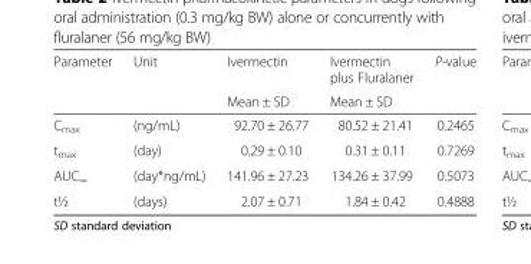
<table><thead><tr><td rowspan="2">Parameter</td><td rowspan="2">Unit</td><td rowspan="2">Ivermectin Mean ± SD</td><td rowspan="2">Ivermectin plus Fluralaner Mean ± SD</td><td rowspan="2">P-value</td></tr><tr></tr></thead><tbody><tr><td>C<sub>max</sub></td><td>(ng/mL)</td><td>92.70 ± 26.77</td><td>80.52 ± 21.41</td><td>0.2465</td></tr><tr><td>t<sub>max</sub></td><td>(day)</td><td>0.29 ± 0.10</td><td>0.31 ± 0.11</td><td>0.7269</td></tr><tr><td>AUC<sub>∞</sub></td><td>(day*ng/mL)</td><td>141.96 ± 27.23</td><td>134.26 ± 37.99</td><td>0.5073</td></tr><tr><td>t½</td><td>(days)</td><td>2.07 ± 0.71</td><td>1.84 ± 0.42</td><td>0.4888</td></tr></tbody></table>